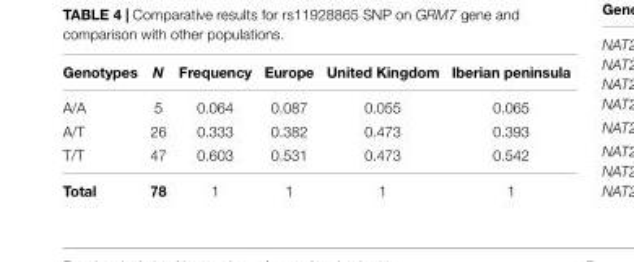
<table><thead><tr><td>Genotypes</td><td>N</td><td>Frequency</td><td>Europe</td><td>United Kingdom</td><td>Iberian peninsula</td></tr></thead><tbody><tr><td>A/A</td><td>5</td><td>0.064</td><td>0.087</td><td>0.055</td><td>0.065</td></tr><tr><td>A/T</td><td>26</td><td>0.333</td><td>0.382</td><td>0.473</td><td>0.393</td></tr><tr><td>T/T</td><td>47</td><td>0.603</td><td>0.531</td><td>0.473</td><td>0.542</td></tr><tr><td>Total</td><td>78</td><td>1</td><td>1</td><td>1</td><td>1</td></tr></tbody></table>